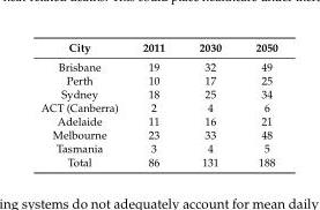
<table><thead><tr><td>City</td><td>2011</td><td>2030</td><td>2050</td></tr></thead><tbody><tr><td>Brisbane</td><td>19</td><td>32</td><td>49</td></tr><tr><td>Perth</td><td>10</td><td>17</td><td>25</td></tr><tr><td>Sydney</td><td>18</td><td>25</td><td>34</td></tr><tr><td>ACT (Canberra)</td><td>2</td><td>4</td><td>6</td></tr><tr><td>Adelaide</td><td>11</td><td>16</td><td>21</td></tr><tr><td>Melbourne</td><td>23</td><td>33</td><td>48</td></tr><tr><td>Tasmania</td><td>3</td><td>4</td><td>5</td></tr><tr><td>Total</td><td>86</td><td>131</td><td>188</td></tr></tbody></table>